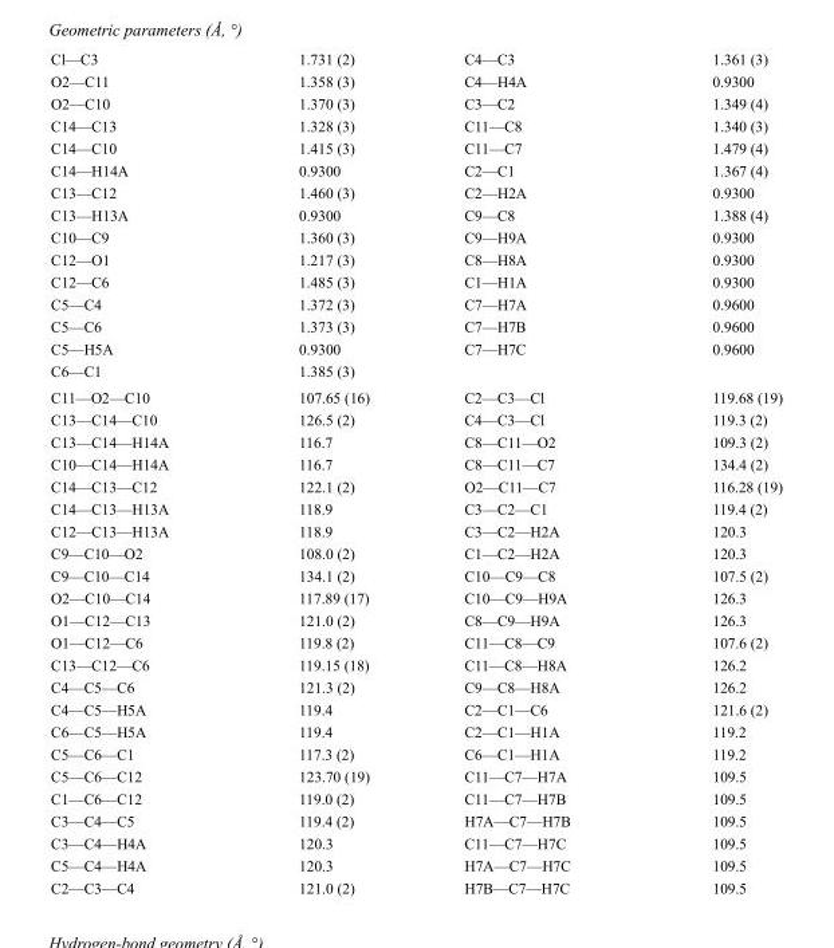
<table><tbody><tr><td>Cl—C3</td><td>1.731 (2)</td><td>C4—C3</td><td>1.361 (3)</td></tr><tr><td>O2—C11</td><td>1.358 (3)</td><td>C4—H4A</td><td>0.9300</td></tr><tr><td>O2—C10</td><td>1.370 (3)</td><td>C3—C2</td><td>1.349 (4)</td></tr><tr><td>C14—C13</td><td>1.328 (3)</td><td>C11—C8</td><td>1.340 (3)</td></tr><tr><td>C14—C10</td><td>1.415 (3)</td><td>C11—C7</td><td>1.479 (4)</td></tr><tr><td>C14—H14A</td><td>0.9300</td><td>C2—C1</td><td>1.367 (4)</td></tr><tr><td>C13—C12</td><td>1.460 (3)</td><td>C2—H2A</td><td>0.9300</td></tr><tr><td>C13—H13A</td><td>0.9300</td><td>C9—C8</td><td>1.388 (4)</td></tr><tr><td>C10—C9</td><td>1.360 (3)</td><td>C9—H9A</td><td>0.9300</td></tr><tr><td>C12—O1</td><td>1.217 (3)</td><td>C8—H8A</td><td>0.9300</td></tr><tr><td>C12—C6</td><td>1.485 (3)</td><td>C1—H1A</td><td>0.9300</td></tr><tr><td>C5—C4</td><td>1.372 (3)</td><td>C7—H7A</td><td>0.9600</td></tr><tr><td>C5—C6</td><td>1.373 (3)</td><td>C7—H7B</td><td>0.9600</td></tr><tr><td>C5—H5A</td><td>0.9300</td><td>C7—H7C</td><td>0.9600</td></tr><tr><td>C6—C1</td><td>1.385 (3)</td><td></td><td></td></tr><tr><td>C11—O2—C10</td><td>107.65 (16)</td><td>C2—C3—Cl</td><td>119.68 (19)</td></tr><tr><td>C13—C14—C10</td><td>126.5 (2)</td><td>C4—C3—Cl</td><td>119.3 (2)</td></tr><tr><td>C13—C14—H14A</td><td>116.7</td><td>C8—C11—O2</td><td>109.3 (2)</td></tr><tr><td>C10—C14—H14A</td><td>116.7</td><td>C8—C11—C7</td><td>134.4 (2)</td></tr><tr><td>C14—C13—C12</td><td>122.1 (2)</td><td>O2—C11—C7</td><td>116.28 (19)</td></tr><tr><td>C14—C13—H13A</td><td>118.9</td><td>C3—C2—C1</td><td>119.4 (2)</td></tr><tr><td>C12—C13—H13A</td><td>118.9</td><td>C3—C2—H2A</td><td>120.3</td></tr><tr><td>C9—C10—O2</td><td>108.0 (2)</td><td>C1—C2—H2A</td><td>120.3</td></tr><tr><td>C9—C10—C14</td><td>134.1 (2)</td><td>C10—C9—C8</td><td>107.5 (2)</td></tr><tr><td>O2—C10—C14</td><td>117.89 (17)</td><td>C10—C9—H9A</td><td>126.3</td></tr><tr><td>O1—C12—C13</td><td>121.0 (2)</td><td>C8—C9—H9A</td><td>126.3</td></tr><tr><td>O1—C12—C6</td><td>119.8 (2)</td><td>C11—C8—C9</td><td>107.6 (2)</td></tr><tr><td>C13—C12—C6</td><td>119.15 (18)</td><td>C11—C8—H8A</td><td>126.2</td></tr><tr><td>C4—C5—C6</td><td>121.3 (2)</td><td>C9—C8—H8A</td><td>126.2</td></tr><tr><td>C4—C5—H5A</td><td>119.4</td><td>C2—C1—C6</td><td>121.6 (2)</td></tr><tr><td>C6—C5—H5A</td><td>119.4</td><td>C2—C1—H1A</td><td>119.2</td></tr><tr><td>C5—C6—C1</td><td>117.3 (2)</td><td>C6—C1—H1A</td><td>119.2</td></tr><tr><td>C5—C6—C12</td><td>123.70 (19)</td><td>C11—C7—H7A</td><td>109.5</td></tr><tr><td>C1—C6—C12</td><td>119.0 (2)</td><td>C11—C7—H7B</td><td>109.5</td></tr><tr><td>C3—C4—C5</td><td>119.4 (2)</td><td>H7A—C7—H7B</td><td>109.5</td></tr><tr><td>C3—C4—H4A</td><td>120.3</td><td>C11—C7—H7C</td><td>109.5</td></tr><tr><td>C5—C4—H4A</td><td>120.3</td><td>H7A—C7—H7C</td><td>109.5</td></tr><tr><td>C2—C3—C4</td><td>121.0 (2)</td><td>H7B—C7—H7C</td><td>109.5</td></tr></tbody></table>